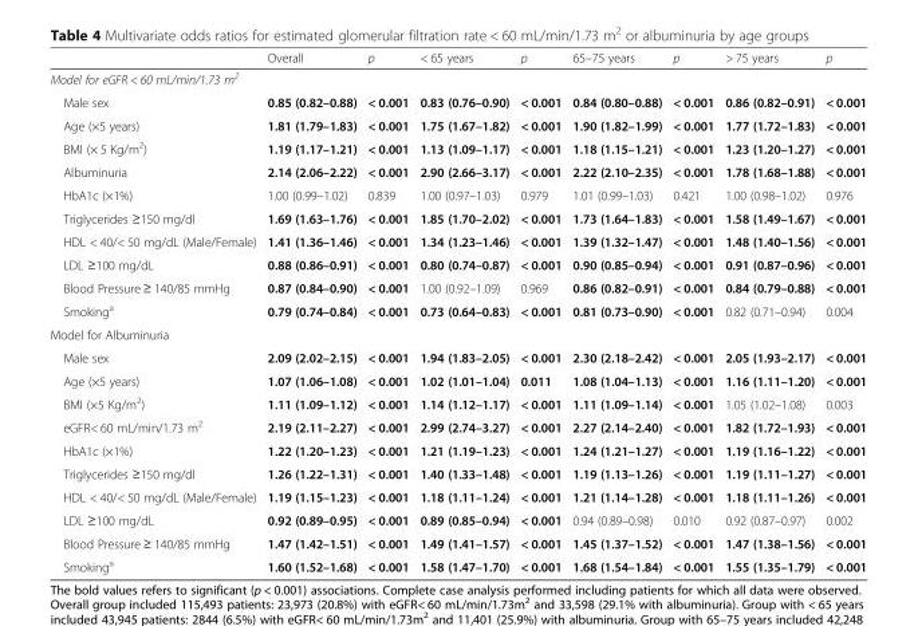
<table><thead><tr><td></td><td>Overall</td><td>p</td><td>&lt; 65 years</td><td>p</td><td>65–75 years</td><td>p</td><td>&gt; 75 years</td><td>p</td></tr></thead><tbody><tr><td colspan="9">Model for eGFR &lt; 60 mL/min/1.73 m<sup>2</sup></td></tr><tr><td>Male sex</td><td>0.85 (0.82–0.88)</td><td>&lt; 0.001</td><td>0.83 (0.76–0.90)</td><td>&lt; 0.001</td><td>0.84 (0.80–0.88)</td><td>&lt; 0.001</td><td>0.86 (0.82–0.91)</td><td>&lt; 0.001</td></tr><tr><td>Age (×5 years)</td><td>1.81 (1.79–1.83)</td><td>&lt; 0.001</td><td>1.75 (1.67–1.82)</td><td>&lt; 0.001</td><td>1.90 (1.82–1.99)</td><td>&lt; 0.001</td><td>1.77 (1.72–1.83)</td><td>&lt; 0.001</td></tr><tr><td>BMI (× 5 Kg/m<sup>2</sup>)</td><td>1.19 (1.17–1.21)</td><td>&lt; 0.001</td><td>1.13 (1.09–1.17)</td><td>&lt; 0.001</td><td>1.18 (1.15–1.21)</td><td>&lt; 0.001</td><td>1.23 (1.20–1.27)</td><td>&lt; 0.001</td></tr><tr><td>Albuminuria</td><td>2.14 (2.06–2.22)</td><td>&lt; 0.001</td><td>2.90 (2.66–3.17)</td><td>&lt; 0.001</td><td>2.22 (2.10–2.35)</td><td>&lt; 0.001</td><td>1.78 (1.68–1.88)</td><td>&lt; 0.001</td></tr><tr><td>HbA1c (×1%)</td><td>1.00 (0.99–1.02)</td><td>0.839</td><td>1.00 (0.97–1.03)</td><td>0.979</td><td>1.01 (0.99–1.03)</td><td>0.421</td><td>1.00 (0.98–1.02)</td><td>0.976</td></tr><tr><td>Triglycerides ≥150 mg/dl</td><td>1.69 (1.63–1.76)</td><td>&lt; 0.001</td><td>1.85 (1.70–2.02)</td><td>&lt; 0.001</td><td>1.73 (1.64–1.83)</td><td>&lt; 0.001</td><td>1.58 (1.49–1.67)</td><td>&lt; 0.001</td></tr><tr><td>HDL &lt; 40/&lt; 50 mg/dL (Male/Female)</td><td>1.41 (1.36–1.46)</td><td>&lt; 0.001</td><td>1.34 (1.23–1.46)</td><td>&lt; 0.001</td><td>1.39 (1.32–1.47)</td><td>&lt; 0.001</td><td>1.48 (1.40–1.56)</td><td>&lt; 0.001</td></tr><tr><td>LDL ≥100 mg/dL</td><td>0.88 (0.86–0.91)</td><td>&lt; 0.001</td><td>0.80 (0.74–0.87)</td><td>&lt; 0.001</td><td>0.90 (0.85–0.94)</td><td>&lt; 0.001</td><td>0.91 (0.87–0.96)</td><td>&lt; 0.001</td></tr><tr><td>Blood Pressure ≥ 140/85 mmHg</td><td>0.87 (0.84–0.90)</td><td>&lt; 0.001</td><td>1.00 (0.92–1.09)</td><td>0.969</td><td>0.86 (0.82–0.91)</td><td>&lt; 0.001</td><td>0.84 (0.79–0.88)</td><td>&lt; 0.001</td></tr><tr><td>Smoking<sup>a</sup></td><td>0.79 (0.74–0.84)</td><td>&lt; 0.001</td><td>0.73 (0.64–0.83)</td><td>&lt; 0.001</td><td>0.81 (0.73–0.90)</td><td>&lt; 0.001</td><td>0.82 (0.71–0.94)</td><td>0.004</td></tr><tr><td colspan="9">Model for Albuminuria</td></tr><tr><td>Male sex</td><td>2.09 (2.02–2.15)</td><td>&lt; 0.001</td><td>1.94 (1.83–2.05)</td><td>&lt; 0.001</td><td>2.30 (2.18–2.42)</td><td>&lt; 0.001</td><td>2.05 (1.93–2.17)</td><td>&lt; 0.001</td></tr><tr><td>Age (×5 years)</td><td>1.07 (1.06–1.08)</td><td>&lt; 0.001</td><td>1.02 (1.01–1.04)</td><td>0.011</td><td>1.08 (1.04–1.13)</td><td>&lt; 0.001</td><td>1.16 (1.11–1.20)</td><td>&lt; 0.001</td></tr><tr><td>BMI (×5 Kg/m<sup>2</sup>)</td><td>1.11 (1.09–1.12)</td><td>&lt; 0.001</td><td>1.14 (1.12–1.17)</td><td>&lt; 0.001</td><td>1.11 (1.09–1.14)</td><td>&lt; 0.001</td><td>1.05 (1.02–1.08)</td><td>0.003</td></tr><tr><td>eGFR&lt; 60 mL/min/1.73 m<sup>2</sup></td><td>2.19 (2.11–2.27)</td><td>&lt; 0.001</td><td>2.99 (2.74–3.27)</td><td>&lt; 0.001</td><td>2.27 (2.14–2.40)</td><td>&lt; 0.001</td><td>1.82 (1.72–1.93)</td><td>&lt; 0.001</td></tr><tr><td>HbA1c (×1%)</td><td>1.22 (1.20–1.23)</td><td>&lt; 0.001</td><td>1.21 (1.19–1.23)</td><td>&lt; 0.001</td><td>1.24 (1.21–1.27)</td><td>&lt; 0.001</td><td>1.19 (1.16–1.22)</td><td>&lt; 0.001</td></tr><tr><td>Triglycerides ≥150 mg/dl</td><td>1.26 (1.22–1.31)</td><td>&lt; 0.001</td><td>1.40 (1.33–1.48)</td><td>&lt; 0.001</td><td>1.19 (1.13–1.26)</td><td>&lt; 0.001</td><td>1.19 (1.11–1.27)</td><td>&lt; 0.001</td></tr><tr><td>HDL &lt; 40/&lt; 50 mg/dL (Male/Female)</td><td>1.19 (1.15–1.23)</td><td>&lt; 0.001</td><td>1.18 (1.11–1.24)</td><td>&lt; 0.001</td><td>1.21 (1.14–1.28)</td><td>&lt; 0.001</td><td>1.18 (1.11–1.26)</td><td>&lt; 0.001</td></tr><tr><td>LDL ≥100 mg/dL</td><td>0.92 (0.89–0.95)</td><td>&lt; 0.001</td><td>0.89 (0.85–0.94)</td><td>&lt; 0.001</td><td>0.94 (0.89–0.98)</td><td>0.010</td><td>0.92 (0.87–0.97)</td><td>0.002</td></tr><tr><td>Blood Pressure ≥ 140/85 mmHg</td><td>1.47 (1.42–1.51)</td><td>&lt; 0.001</td><td>1.49 (1.41–1.57)</td><td>&lt; 0.001</td><td>1.45 (1.37–1.52)</td><td>&lt; 0.001</td><td>1.47 (1.38–1.56)</td><td>&lt; 0.001</td></tr><tr><td>Smoking<sup>a</sup></td><td>1.60 (1.52–1.68)</td><td>&lt; 0.001</td><td>1.58 (1.47–1.70)</td><td>&lt; 0.001</td><td>1.68 (1.54–1.84)</td><td>&lt; 0.001</td><td>1.55 (1.35–1.79)</td><td>&lt; 0.001</td></tr></tbody></table>